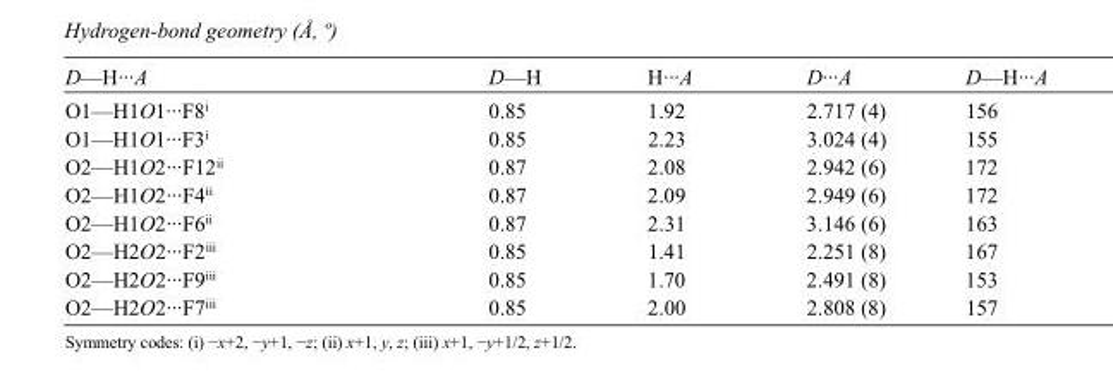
<table><tbody><tr><td>D—H···A</td><td>D—H</td><td>H···A</td><td>D···A</td><td>D—H···A</td></tr><tr><td>O1—H1O1···F8<sup>i</sup></td><td>0.85</td><td>1.92</td><td>2.717 (4)</td><td>156</td></tr><tr><td>O1—H1O1···F3<sup>i</sup></td><td>0.85</td><td>2.23</td><td>3.024 (4)</td><td>155</td></tr><tr><td>O2—H1O2···F12<sup>ii</sup></td><td>0.87</td><td>2.08</td><td>2.942 (6)</td><td>172</td></tr><tr><td>O2—H1O2···F4<sup>ii</sup></td><td>0.87</td><td>2.09</td><td>2.949 (6)</td><td>172</td></tr><tr><td>O2—H1O2···F6<sup>ii</sup></td><td>0.87</td><td>2.31</td><td>3.146 (6)</td><td>163</td></tr><tr><td>O2—H2O2···F2<sup>iii</sup></td><td>0.85</td><td>1.41</td><td>2.251 (8)</td><td>167</td></tr><tr><td>O2—H2O2···F9<sup>iii</sup></td><td>0.85</td><td>1.70</td><td>2.491 (8)</td><td>153</td></tr><tr><td>O2—H2O2···F7<sup>iii</sup></td><td>0.85</td><td>2.00</td><td>2.808 (8)</td><td>157</td></tr></tbody></table>